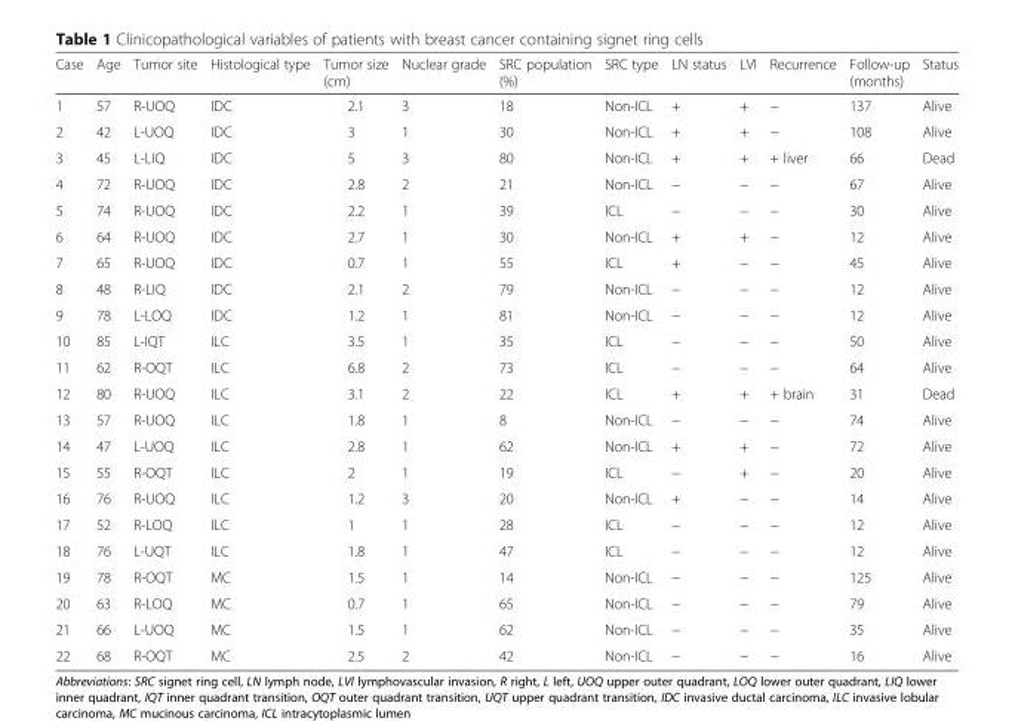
<table><thead><tr><td>Case</td><td>Age</td><td>Tumor site</td><td>Histological type</td><td>Tumor size (cm)</td><td>Nuclear grade</td><td>SRC population (%)</td><td>SRC type</td><td>LN status</td><td>LVI</td><td>Recurrence</td><td>Follow-up (months)</td><td>Status</td></tr></thead><tbody><tr><td>1</td><td>57</td><td>R-UOQ</td><td>IDC</td><td>2.1</td><td>3</td><td>18</td><td>Non-ICL</td><td>+</td><td>+</td><td>−</td><td>137</td><td>Alive</td></tr><tr><td>2</td><td>42</td><td>L-UOQ</td><td>IDC</td><td>3</td><td>1</td><td>30</td><td>Non-ICL</td><td>+</td><td>+</td><td>−</td><td>108</td><td>Alive</td></tr><tr><td>3</td><td>45</td><td>L-LIQ</td><td>IDC</td><td>5</td><td>3</td><td>80</td><td>Non-ICL</td><td>+</td><td>+</td><td>+ liver</td><td>66</td><td>Dead</td></tr><tr><td>4</td><td>72</td><td>R-UOQ</td><td>IDC</td><td>2.8</td><td>2</td><td>21</td><td>Non-ICL</td><td>−</td><td>−</td><td>−</td><td>67</td><td>Alive</td></tr><tr><td>5</td><td>74</td><td>R-UOQ</td><td>IDC</td><td>2.2</td><td>1</td><td>39</td><td>ICL</td><td>−</td><td>−</td><td>−</td><td>30</td><td>Alive</td></tr><tr><td>6</td><td>64</td><td>R-UOQ</td><td>IDC</td><td>2.7</td><td>1</td><td>30</td><td>Non-ICL</td><td>+</td><td>+</td><td>−</td><td>12</td><td>Alive</td></tr><tr><td>7</td><td>65</td><td>R-UOQ</td><td>IDC</td><td>0.7</td><td>1</td><td>55</td><td>ICL</td><td>+</td><td>−</td><td>−</td><td>45</td><td>Alive</td></tr><tr><td>8</td><td>48</td><td>R-LIQ</td><td>IDC</td><td>2.1</td><td>2</td><td>79</td><td>Non-ICL</td><td>−</td><td>−</td><td>−</td><td>12</td><td>Alive</td></tr><tr><td>9</td><td>78</td><td>L-LOQ</td><td>IDC</td><td>1.2</td><td>1</td><td>81</td><td>Non-ICL</td><td>−</td><td>−</td><td>−</td><td>12</td><td>Alive</td></tr><tr><td>10</td><td>85</td><td>L-IQT</td><td>ILC</td><td>3.5</td><td>1</td><td>35</td><td>ICL</td><td>−</td><td>−</td><td>−</td><td>50</td><td>Alive</td></tr><tr><td>11</td><td>62</td><td>R-OQT</td><td>ILC</td><td>6.8</td><td>2</td><td>73</td><td>ICL</td><td>−</td><td>−</td><td>−</td><td>64</td><td>Alive</td></tr><tr><td>12</td><td>80</td><td>R-UOQ</td><td>ILC</td><td>3.1</td><td>2</td><td>22</td><td>ICL</td><td>+</td><td>+</td><td>+ brain</td><td>31</td><td>Dead</td></tr><tr><td>13</td><td>57</td><td>R-UOQ</td><td>ILC</td><td>1.8</td><td>1</td><td>8</td><td>Non-ICL</td><td>−</td><td>−</td><td>−</td><td>74</td><td>Alive</td></tr><tr><td>14</td><td>47</td><td>L-UOQ</td><td>ILC</td><td>2.8</td><td>1</td><td>62</td><td>Non-ICL</td><td>+</td><td>+</td><td>−</td><td>72</td><td>Alive</td></tr><tr><td>15</td><td>55</td><td>R-OQT</td><td>ILC</td><td>2</td><td>1</td><td>19</td><td>ICL</td><td>−</td><td>+</td><td>−</td><td>20</td><td>Alive</td></tr><tr><td>16</td><td>76</td><td>R-UOQ</td><td>ILC</td><td>1.2</td><td>3</td><td>20</td><td>Non-ICL</td><td>+</td><td>−</td><td>−</td><td>14</td><td>Alive</td></tr><tr><td>17</td><td>52</td><td>R-LOQ</td><td>ILC</td><td>1</td><td>1</td><td>28</td><td>ICL</td><td>−</td><td>−</td><td>−</td><td>12</td><td>Alive</td></tr><tr><td>18</td><td>76</td><td>L-UQT</td><td>ILC</td><td>1.8</td><td>1</td><td>47</td><td>ICL</td><td>−</td><td>−</td><td>−</td><td>12</td><td>Alive</td></tr><tr><td>19</td><td>78</td><td>R-OQT</td><td>MC</td><td>1.5</td><td>1</td><td>14</td><td>Non-ICL</td><td>−</td><td>−</td><td>−</td><td>125</td><td>Alive</td></tr><tr><td>20</td><td>63</td><td>R-LOQ</td><td>MC</td><td>0.7</td><td>1</td><td>65</td><td>Non-ICL</td><td>−</td><td>−</td><td>−</td><td>79</td><td>Alive</td></tr><tr><td>21</td><td>66</td><td>L-UOQ</td><td>MC</td><td>1.5</td><td>1</td><td>62</td><td>Non-ICL</td><td>−</td><td>−</td><td>−</td><td>35</td><td>Alive</td></tr><tr><td>22</td><td>68</td><td>R-OQT</td><td>MC</td><td>2.5</td><td>2</td><td>42</td><td>Non-ICL</td><td>−</td><td>−</td><td>−</td><td>16</td><td>Alive</td></tr></tbody></table>